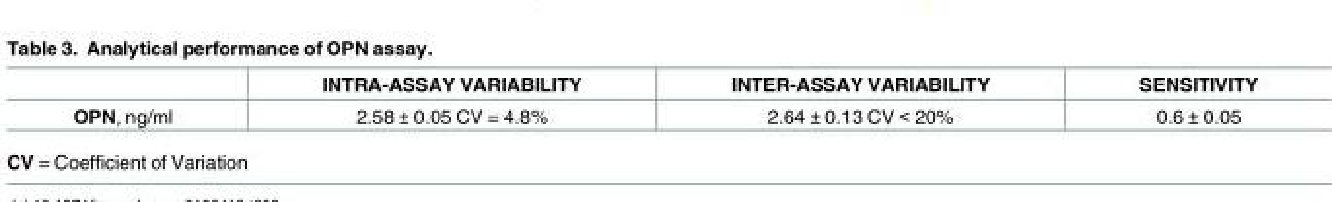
<table><thead><tr><td></td><td>INTRA-ASSAY VARIABILITY</td><td>INTER-ASSAY VARIABILITY</td><td>SENSITIVITY</td></tr></thead><tbody><tr><td>OPN, ng/ml</td><td>2.58 ± 0.05 CV = 4.8%</td><td>2.64 ± 0.13 CV &lt; 20%</td><td>0.6 ± 0.05</td></tr></tbody></table>